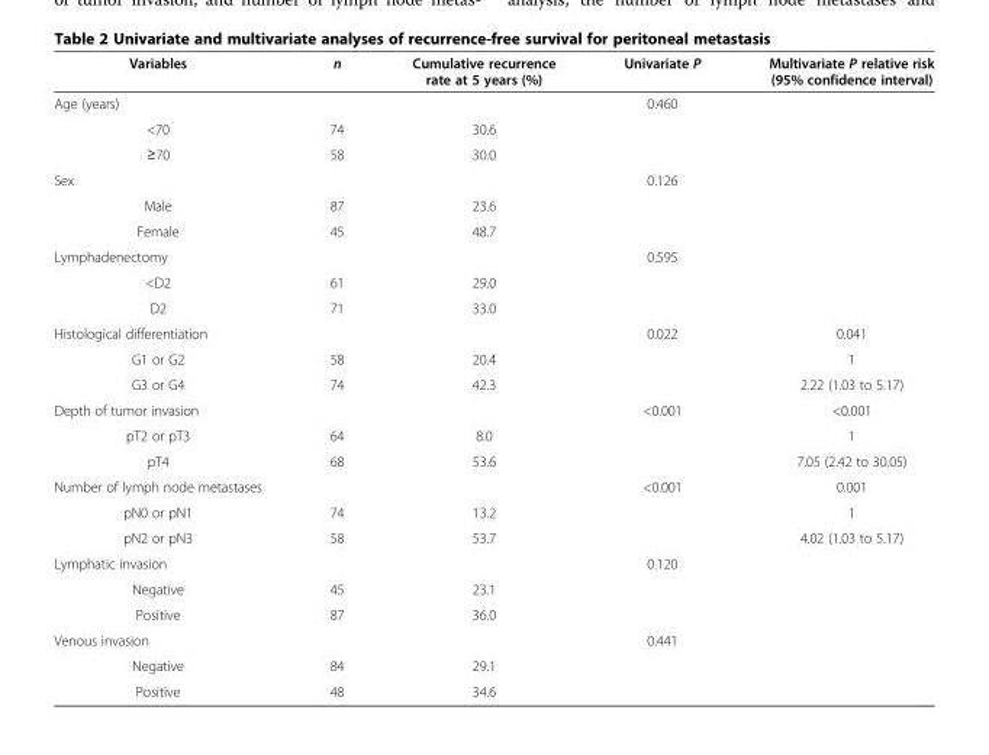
<table><thead><tr><td>Variables</td><td>n</td><td>Cumulative recurrence rate at 5 years (%)</td><td>Univariate P</td><td>Multivariate P relative risk (95% confidence interval)</td></tr></thead><tbody><tr><td>Age (years)</td><td></td><td></td><td>0.460</td><td></td></tr><tr><td>&lt;70</td><td>74</td><td>30.6</td><td></td><td></td></tr><tr><td>≥70</td><td>58</td><td>30.0</td><td></td><td></td></tr><tr><td>Sex</td><td></td><td></td><td>0.126</td><td></td></tr><tr><td>Male</td><td>87</td><td>23.6</td><td></td><td></td></tr><tr><td>Female</td><td>45</td><td>48.7</td><td></td><td></td></tr><tr><td>Lymphadenectomy</td><td></td><td></td><td>0.595</td><td></td></tr><tr><td>&lt;D2</td><td>61</td><td>29.0</td><td></td><td></td></tr><tr><td>D2</td><td>71</td><td>33.0</td><td></td><td></td></tr><tr><td>Histological differentiation</td><td></td><td></td><td>0.022</td><td>0.041</td></tr><tr><td>G1 or G2</td><td>58</td><td>20.4</td><td></td><td>1</td></tr><tr><td>G3 or G4</td><td>74</td><td>42.3</td><td></td><td>2.22 (1.03 to 5.17)</td></tr><tr><td>Depth of tumor invasion</td><td></td><td></td><td>&lt;0.001</td><td>&lt;0.001</td></tr><tr><td>pT2 or pT3</td><td>64</td><td>8.0</td><td></td><td>1</td></tr><tr><td>pT4</td><td>68</td><td>53.6</td><td></td><td>7.05 (2.42 to 30.05)</td></tr><tr><td>Number of lymph node metastases</td><td></td><td></td><td>&lt;0.001</td><td>0.001</td></tr><tr><td>pN0 or pN1</td><td>74</td><td>13.2</td><td></td><td>1</td></tr><tr><td>pN2 or pN3</td><td>58</td><td>53.7</td><td></td><td>4.02 (1.03 to 5.17)</td></tr><tr><td>Lymphatic invasion</td><td></td><td></td><td>0.120</td><td></td></tr><tr><td>Negative</td><td>45</td><td>23.1</td><td></td><td></td></tr><tr><td>Positive</td><td>87</td><td>36.0</td><td></td><td></td></tr><tr><td>Venous invasion</td><td></td><td></td><td>0.441</td><td></td></tr><tr><td>Negative</td><td>84</td><td>29.1</td><td></td><td></td></tr><tr><td>Positive</td><td>48</td><td>34.6</td><td></td><td></td></tr></tbody></table>